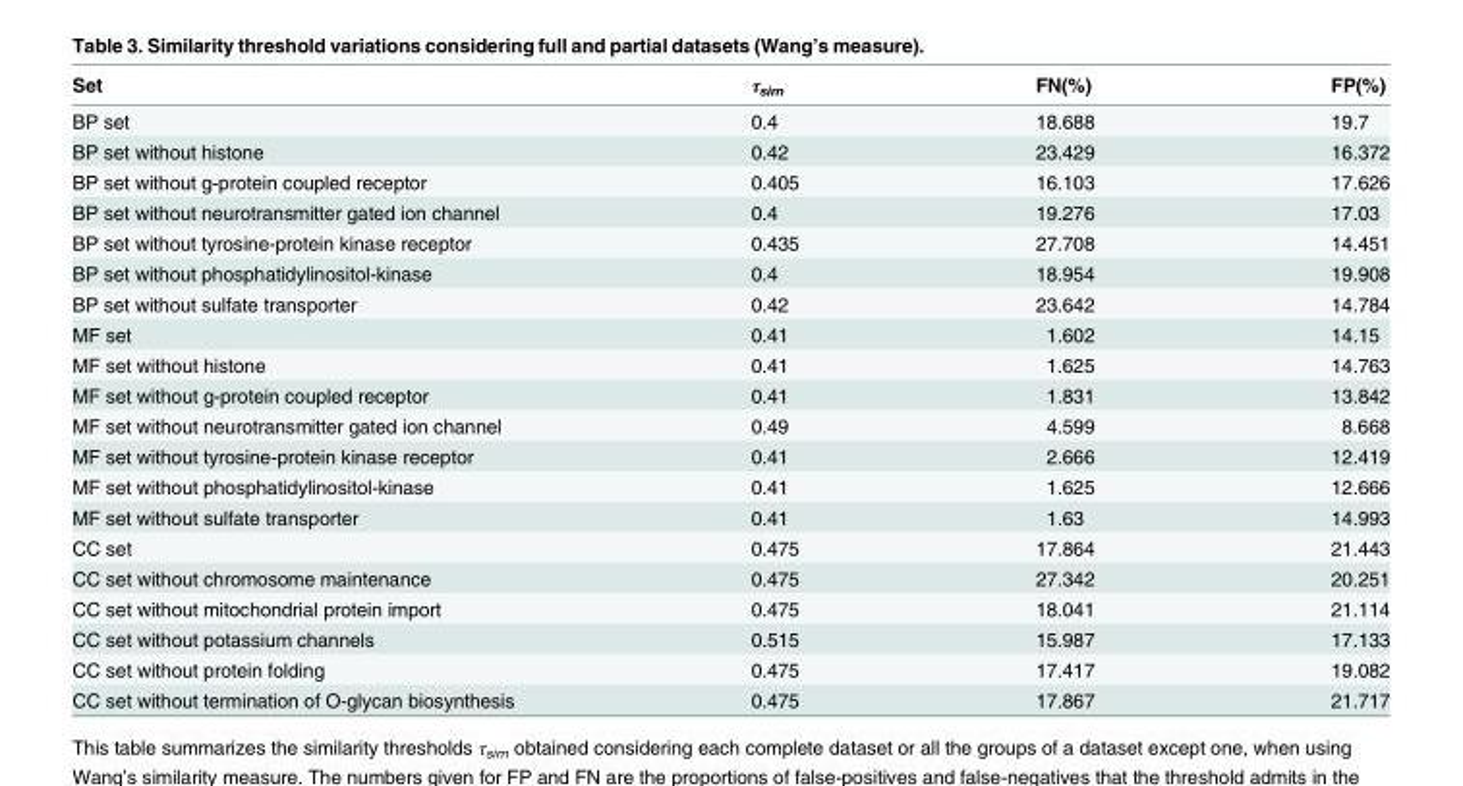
<table><thead><tr><td>Set</td><td>τ<sub>sim</sub></td><td>FN(%)</td><td>FP(%)</td></tr></thead><tbody><tr><td>BP set</td><td>0.4</td><td>18.688</td><td>19.7</td></tr><tr><td>BP set without histone</td><td>0.42</td><td>23.429</td><td>16.372</td></tr><tr><td>BP set without g-protein coupled receptor</td><td>0.405</td><td>16.103</td><td>17.626</td></tr><tr><td>BP set without neurotransmitter gated ion channel</td><td>0.4</td><td>19.276</td><td>17.03</td></tr><tr><td>BP set without tyrosine-protein kinase receptor</td><td>0.435</td><td>27.708</td><td>14.451</td></tr><tr><td>BP set without phosphatidylinositol-kinase</td><td>0.4</td><td>18.954</td><td>19.908</td></tr><tr><td>BP set without sulfate transporter</td><td>0.42</td><td>23.642</td><td>14.784</td></tr><tr><td>MF set</td><td>0.41</td><td>1.602</td><td>14.15</td></tr><tr><td>MF set without histone</td><td>0.41</td><td>1.625</td><td>14.763</td></tr><tr><td>MF set without g-protein coupled receptor</td><td>0.41</td><td>1.831</td><td>13.842</td></tr><tr><td>MF set without neurotransmitter gated ion channel</td><td>0.49</td><td>4.599</td><td>8.668</td></tr><tr><td>MF set without tyrosine-protein kinase receptor</td><td>0.41</td><td>2.666</td><td>12.419</td></tr><tr><td>MF set without phosphatidylinositol-kinase</td><td>0.41</td><td>1.625</td><td>12.666</td></tr><tr><td>MF set without sulfate transporter</td><td>0.41</td><td>1.63</td><td>14.993</td></tr><tr><td>CC set</td><td>0.475</td><td>17.864</td><td>21.443</td></tr><tr><td>CC set without chromosome maintenance</td><td>0.475</td><td>27.342</td><td>20.251</td></tr><tr><td>CC set without mitochondrial protein import</td><td>0.475</td><td>18.041</td><td>21.114</td></tr><tr><td>CC set without potassium channels</td><td>0.515</td><td>15.987</td><td>17.133</td></tr><tr><td>CC set without protein folding</td><td>0.475</td><td>17.417</td><td>19.082</td></tr><tr><td>CC set without termination of O-glycan biosynthesis</td><td>0.475</td><td>17.867</td><td>21.717</td></tr></tbody></table>